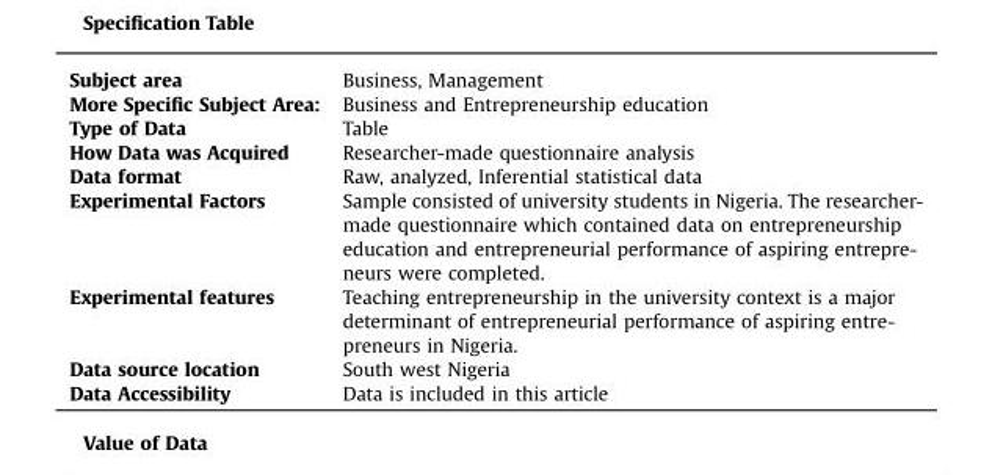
<table><tbody><tr><td>Subject area</td><td>Business, Management</td></tr><tr><td>More Specific Subject Area:</td><td>Business and Entrepreneurship education</td></tr><tr><td>Type of Data</td><td>Table</td></tr><tr><td>How Data was Acquired</td><td>Researcher-made questionnaire analysis</td></tr><tr><td>Data format</td><td>Raw, analyzed, Inferential statistical data</td></tr><tr><td>Experimental Factors</td><td>Sample consisted of university students in Nigeria. The researcher- made questionnaire which contained data on entrepreneurship education and entrepreneurial performance of aspiring entrepre- neurs were completed.</td></tr><tr><td>Experimental features</td><td>Teaching entrepreneurship in the university context is a major determinant of entrepreneurial performance of aspiring entre- preneurs in Nigeria.</td></tr><tr><td>Data source location</td><td>South west Nigeria</td></tr><tr><td>Data Accessibility</td><td>Data is included in this article</td></tr></tbody></table>